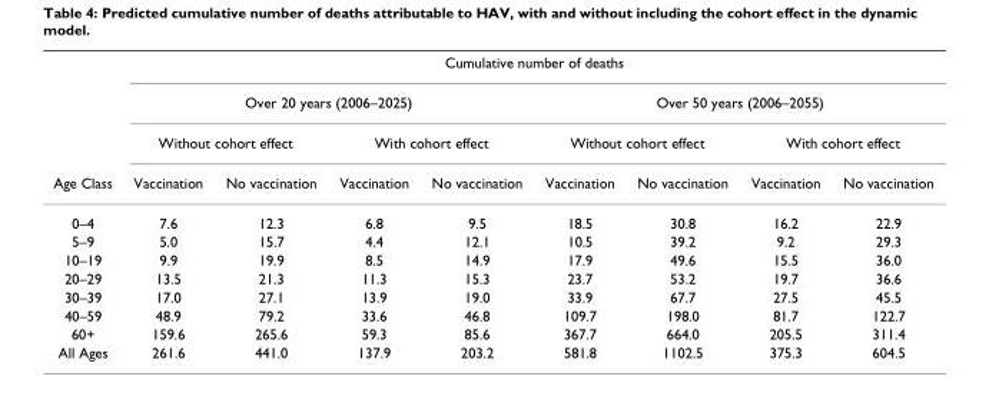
<table><thead><tr><td rowspan="4">Age Class</td><td colspan="8">Cumulative number of deaths</td></tr><tr><td colspan="4">Over 20 years (2006–2025)</td><td colspan="4">Over 50 years (2006–2055)</td></tr><tr><td colspan="2">Without cohort effect</td><td colspan="2">With cohort effect</td><td colspan="2">Without cohort effect</td><td colspan="2">With cohort effect</td></tr><tr><td>Vaccination</td><td>No vaccination</td><td>Vaccination</td><td>No vaccination</td><td>Vaccination</td><td>No vaccination</td><td>Vaccination</td><td>No vaccination</td></tr></thead><tbody><tr><td>0–4</td><td>7.6</td><td>12.3</td><td>6.8</td><td>9.5</td><td>18.5</td><td>30.8</td><td>16.2</td><td>22.9</td></tr><tr><td>5–9</td><td>5.0</td><td>15.7</td><td>4.4</td><td>12.1</td><td>10.5</td><td>39.2</td><td>9.2</td><td>29.3</td></tr><tr><td>10–19</td><td>9.9</td><td>19.9</td><td>8.5</td><td>14.9</td><td>17.9</td><td>49.6</td><td>15.5</td><td>36.0</td></tr><tr><td>20–29</td><td>13.5</td><td>21.3</td><td>11.3</td><td>15.3</td><td>23.7</td><td>53.2</td><td>19.7</td><td>36.6</td></tr><tr><td>30–39</td><td>17.0</td><td>27.1</td><td>13.9</td><td>19.0</td><td>33.9</td><td>67.7</td><td>27.5</td><td>45.5</td></tr><tr><td>40–59</td><td>48.9</td><td>79.2</td><td>33.6</td><td>46.8</td><td>109.7</td><td>198.0</td><td>81.7</td><td>122.7</td></tr><tr><td>60+</td><td>159.6</td><td>265.6</td><td>59.3</td><td>85.6</td><td>367.7</td><td>664.0</td><td>205.5</td><td>311.4</td></tr><tr><td>All Ages</td><td>261.6</td><td>441.0</td><td>137.9</td><td>203.2</td><td>581.8</td><td>1102.5</td><td>375.3</td><td>604.5</td></tr></tbody></table>